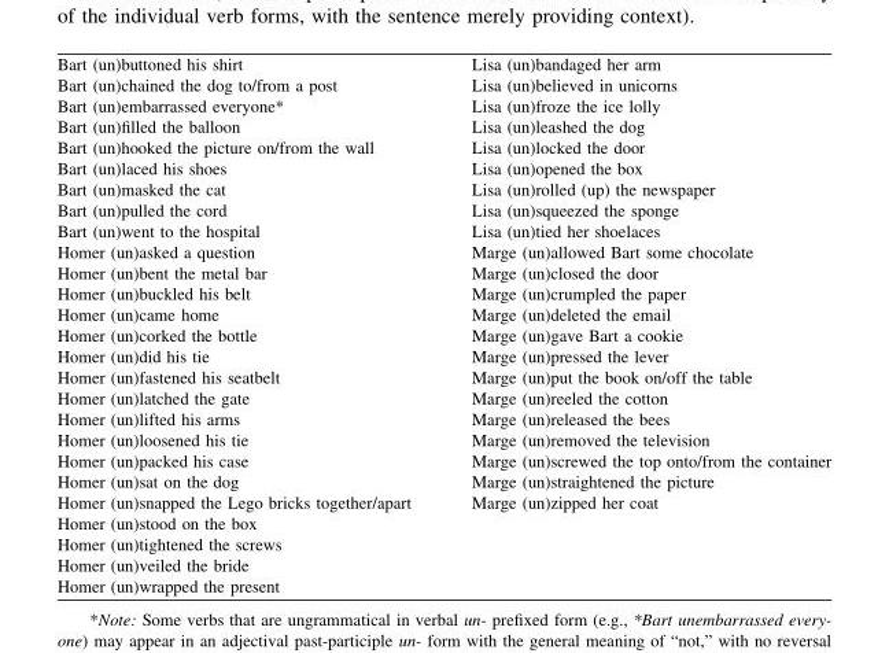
<table><tbody><tr><td>Bart (un)buttoned his shirt</td><td>Lisa (un)bandaged her arm</td></tr><tr><td>Bart (un)chained the dog to/from a post</td><td>Lisa (un)believed in unicorns</td></tr><tr><td>Bart (un)embarrassed everyone*</td><td>Lisa (un)froze the ice lolly</td></tr><tr><td>Bart (un)filled the balloon</td><td>Lisa (un)leashed the dog</td></tr><tr><td>Bart (un)hooked the picture on/from the wall</td><td>Lisa (un)locked the door</td></tr><tr><td>Bart (un)laced his shoes</td><td>Lisa (un)opened the box</td></tr><tr><td>Bart (un)masked the cat</td><td>Lisa (un)rolled (up) the newspaper</td></tr><tr><td>Bart (un)pulled the cord</td><td>Lisa (un)squeezed the sponge</td></tr><tr><td>Bart (un)went to the hospital</td><td>Lisa (un)tied her shoelaces</td></tr><tr><td>Homer (un)asked a question</td><td>Marge (un)allowed Bart some chocolate</td></tr><tr><td>Homer (un)bent the metal bar</td><td>Marge (un)closed the door</td></tr><tr><td>Homer (un)buckled his belt</td><td>Marge (un)crumpled the paper</td></tr><tr><td>Homer (un)came home</td><td>Marge (un)deleted the email</td></tr><tr><td>Homer (un)corked the bottle</td><td>Marge (un)gave Bart a cookie</td></tr><tr><td>Homer (un)did his tie</td><td>Marge (un)pressed the lever</td></tr><tr><td>Homer (un)fastened his seatbelt</td><td>Marge (un)put the book on/off the table</td></tr><tr><td>Homer (un)latched the gate</td><td>Marge (un)reeled the cotton</td></tr><tr><td>Homer (un)lifted his arms</td><td>Marge (un)released the bees</td></tr><tr><td>Homer (un)loosened his tie</td><td>Marge (un)removed the television</td></tr><tr><td>Homer (un)packed his case</td><td>Marge (un)screwed the top onto/from the container</td></tr><tr><td>Homer (un)sat on the dog</td><td>Marge (un)straightened the picture</td></tr><tr><td>Homer (un)snapped the Lego bricks together/apart</td><td>Marge (un)zipped her coat</td></tr><tr><td colspan="2">Homer (un)stood on the box</td></tr><tr><td colspan="2">Homer (un)tightened the screws</td></tr><tr><td colspan="2">Homer (un)veiled the bride</td></tr><tr><td>Homer (un)wrapped the present</td><td></td></tr></tbody></table>